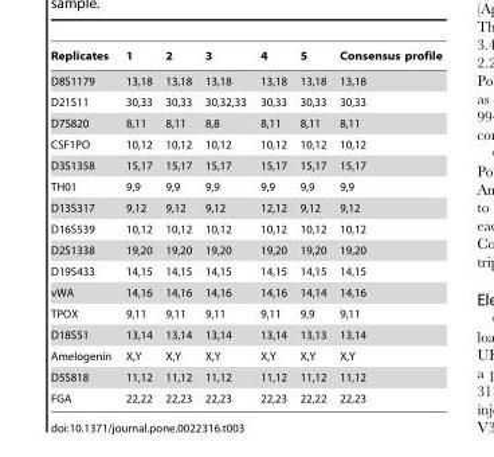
<table><thead><tr><td>Replicates</td><td>1</td><td>2</td><td>3</td><td>4</td><td>5</td><td>Consensus profile</td></tr></thead><tbody><tr><td>D8S1179</td><td>13,18</td><td>13,18</td><td>13,18</td><td>13,18</td><td>13,18</td><td>13,18</td></tr><tr><td>D21S11</td><td>30,33</td><td>30,33</td><td>30,32,33</td><td>30,33</td><td>30,33</td><td>30,33</td></tr><tr><td>D7S820</td><td>8,11</td><td>8,11</td><td>8,8</td><td>8,11</td><td>8,11</td><td>8,11</td></tr><tr><td>CSF1PO</td><td>10,12</td><td>10,12</td><td>10,12</td><td>10,12</td><td>10,12</td><td>10,12</td></tr><tr><td>D3S1358</td><td>15,17</td><td>15,17</td><td>15,17</td><td>15,17</td><td>15,17</td><td>15,17</td></tr><tr><td>TH01</td><td>9,9</td><td>9,9</td><td>9,9</td><td>9,9</td><td>9,9</td><td>9,9</td></tr><tr><td>D13S317</td><td>9,12</td><td>9,12</td><td>9,12</td><td>12,12</td><td>9,12</td><td>9,12</td></tr><tr><td>D16S539</td><td>10,12</td><td>10,12</td><td>10,12</td><td>10,12</td><td>10,12</td><td>10,12</td></tr><tr><td>D2S1338</td><td>19,20</td><td>19,20</td><td>19,20</td><td>19,20</td><td>19,20</td><td>19,20</td></tr><tr><td>D19S433</td><td>14,15</td><td>14,15</td><td>14,15</td><td>14,15</td><td>14,15</td><td>14,15</td></tr><tr><td>vWA</td><td>14,16</td><td>14,16</td><td>14,16</td><td>14,16</td><td>14,14</td><td>14,16</td></tr><tr><td>TPOX</td><td>9,11</td><td>9,11</td><td>9,11</td><td>9,11</td><td>9,9</td><td>9,11</td></tr><tr><td>D18S51</td><td>13,14</td><td>13,14</td><td>13,14</td><td>13,14</td><td>13,13</td><td>13,14</td></tr><tr><td>Amelogenin</td><td>X,Y</td><td>X,Y</td><td>X,Y</td><td>X,Y</td><td>X,Y</td><td>X,Y</td></tr><tr><td>D5S818</td><td>11,12</td><td>11,12</td><td>11,12</td><td>11,12</td><td>11,12</td><td>11,12</td></tr><tr><td>FGA</td><td>22,22</td><td>22,23</td><td>22,23</td><td>22,23</td><td>22,22</td><td>22,23</td></tr></tbody></table>